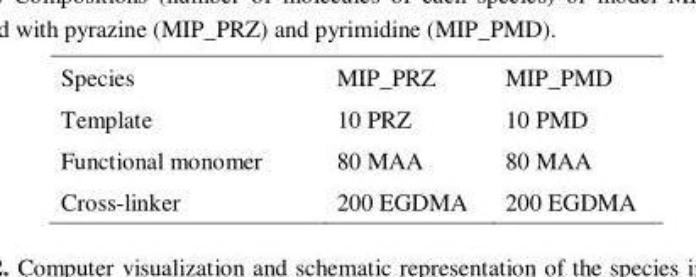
<table><tbody><tr><td>Species</td><td>MIP_PRZ</td><td>MIP_PMD</td></tr><tr><td>Template</td><td>10 PRZ</td><td>10 PMD</td></tr><tr><td>Functional monomer</td><td>80 MAA</td><td>80 MAA</td></tr><tr><td>Cross-linker</td><td>200 EGDMA</td><td>200 EGDMA</td></tr></tbody></table>